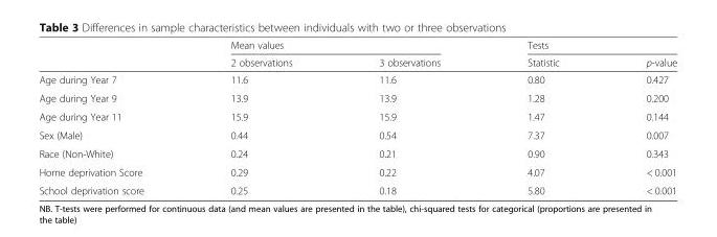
<table><thead><tr><td rowspan="2"></td><td colspan="2">Mean values</td><td colspan="2">Tests</td></tr><tr><td>2 observations</td><td>3 observations</td><td>Statistic</td><td>p-value</td></tr></thead><tbody><tr><td>Age during Year 7</td><td>11.6</td><td>11.6</td><td>0.80</td><td>0.427</td></tr><tr><td>Age during Year 9</td><td>13.9</td><td>13.9</td><td>1.28</td><td>0.200</td></tr><tr><td>Age during Year 11</td><td>15.9</td><td>15.9</td><td>1.47</td><td>0.144</td></tr><tr><td>Sex (Male)</td><td>0.44</td><td>0.54</td><td>7.37</td><td>0.007</td></tr><tr><td>Race (Non-White)</td><td>0.24</td><td>0.21</td><td>0.90</td><td>0.343</td></tr><tr><td>Home deprivation Score</td><td>0.29</td><td>0.22</td><td>4.07</td><td>&lt; 0.001</td></tr><tr><td>School deprivation score</td><td>0.25</td><td>0.18</td><td>5.80</td><td>&lt; 0.001</td></tr></tbody></table>